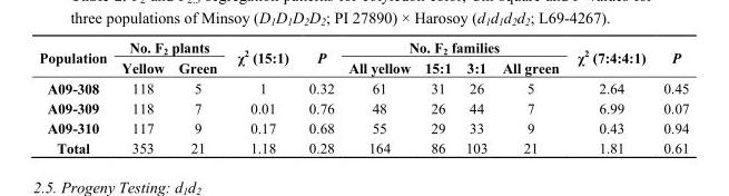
<table><thead><tr><td rowspan="2">Population</td><td colspan="2">No. F<sub>2</sub> plants</td><td rowspan="2">χ<sup>2</sup> (15:1)</td><td rowspan="2">P</td><td colspan="4">No. F<sub>2</sub> families</td><td rowspan="2">χ<sup>2</sup> (7:4:4:1)</td><td rowspan="2">P</td></tr><tr><td>Yellow</td><td>Green</td><td>All yellow</td><td>15:1</td><td>3:1</td><td>All green</td></tr></thead><tbody><tr><td>A09-308</td><td>118</td><td>5</td><td>1</td><td>0.32</td><td>61</td><td>31</td><td>26</td><td>5</td><td>2.64</td><td>0.45</td></tr><tr><td>A09-309</td><td>118</td><td>7</td><td>0.01</td><td>0.76</td><td>48</td><td>26</td><td>44</td><td>7</td><td>6.99</td><td>0.07</td></tr><tr><td>A09-310</td><td>117</td><td>9</td><td>0.17</td><td>0.68</td><td>55</td><td>29</td><td>33</td><td>9</td><td>0.43</td><td>0.94</td></tr><tr><td>Total</td><td>353</td><td>21</td><td>1.18</td><td>0.28</td><td>164</td><td>86</td><td>103</td><td>21</td><td>1.81</td><td>0.61</td></tr></tbody></table>